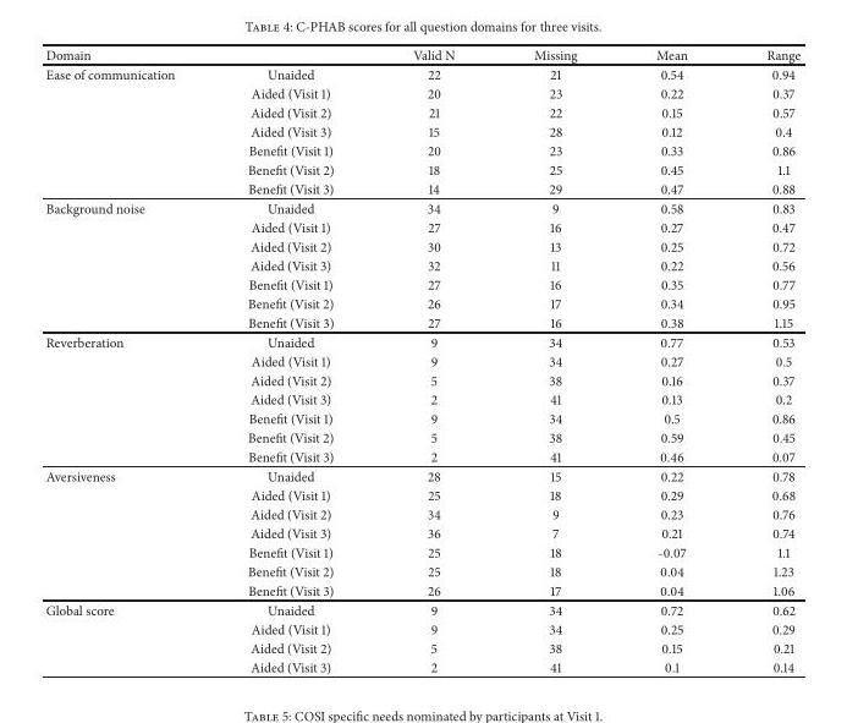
<table><thead><tr><td>Domain</td><td></td><td>Valid N</td><td>Missing</td><td>Mean</td><td>Range</td></tr></thead><tbody><tr><td rowspan="7">Ease of communication</td><td>Unaided</td><td>22</td><td>21</td><td>0.54</td><td>0.94</td></tr><tr><td>Aided (Visit 1)</td><td>20</td><td>23</td><td>0.22</td><td>0.37</td></tr><tr><td>Aided (Visit 2)</td><td>21</td><td>22</td><td>0.15</td><td>0.57</td></tr><tr><td>Aided (Visit 3)</td><td>15</td><td>28</td><td>0.12</td><td>0.4</td></tr><tr><td>Benefit (Visit 1)</td><td>20</td><td>23</td><td>0.33</td><td>0.86</td></tr><tr><td>Benefit (Visit 2)</td><td>18</td><td>25</td><td>0.45</td><td>1.1</td></tr><tr><td>Benefit (Visit 3)</td><td>14</td><td>29</td><td>0.47</td><td>0.88</td></tr><tr><td rowspan="7">Background noise</td><td>Unaided</td><td>34</td><td>9</td><td>0.58</td><td>0.83</td></tr><tr><td>Aided (Visit 1)</td><td>27</td><td>16</td><td>0.27</td><td>0.47</td></tr><tr><td>Aided (Visit 2)</td><td>30</td><td>13</td><td>0.25</td><td>0.72</td></tr><tr><td>Aided (Visit 3)</td><td>32</td><td>11</td><td>0.22</td><td>0.56</td></tr><tr><td>Benefit (Visit 1)</td><td>27</td><td>16</td><td>0.35</td><td>0.77</td></tr><tr><td>Benefit (Visit 2)</td><td>26</td><td>17</td><td>0.34</td><td>0.95</td></tr><tr><td>Benefit (Visit 3)</td><td>27</td><td>16</td><td>0.38</td><td>1.15</td></tr><tr><td rowspan="7">Reverberation</td><td>Unaided</td><td>9</td><td>34</td><td>0.77</td><td>0.53</td></tr><tr><td>Aided (Visit 1)</td><td>9</td><td>34</td><td>0.27</td><td>0.5</td></tr><tr><td>Aided (Visit 2)</td><td>5</td><td>38</td><td>0.16</td><td>0.37</td></tr><tr><td>Aided (Visit 3)</td><td>2</td><td>41</td><td>0.13</td><td>0.2</td></tr><tr><td>Benefit (Visit 1)</td><td>9</td><td>34</td><td>0.5</td><td>0.86</td></tr><tr><td>Benefit (Visit 2)</td><td>5</td><td>38</td><td>0.59</td><td>0.45</td></tr><tr><td>Benefit (Visit 3)</td><td>2</td><td>41</td><td>0.46</td><td>0.07</td></tr><tr><td rowspan="7">Aversiveness</td><td>Unaided</td><td>28</td><td>15</td><td>0.22</td><td>0.78</td></tr><tr><td>Aided (Visit 1)</td><td>25</td><td>18</td><td>0.29</td><td>0.68</td></tr><tr><td>Aided (Visit 2)</td><td>34</td><td>9</td><td>0.23</td><td>0.76</td></tr><tr><td>Aided (Visit 3)</td><td>36</td><td>7</td><td>0.21</td><td>0.74</td></tr><tr><td>Benefit (Visit 1)</td><td>25</td><td>18</td><td>-0.07</td><td>1.1</td></tr><tr><td>Benefit (Visit 2)</td><td>25</td><td>18</td><td>0.04</td><td>1.23</td></tr><tr><td>Benefit (Visit 3)</td><td>26</td><td>17</td><td>0.04</td><td>1.06</td></tr><tr><td rowspan="4">Global score</td><td>Unaided</td><td>9</td><td>34</td><td>0.72</td><td>0.62</td></tr><tr><td>Aided (Visit 1)</td><td>9</td><td>34</td><td>0.25</td><td>0.29</td></tr><tr><td>Aided (Visit 2)</td><td>5</td><td>38</td><td>0.15</td><td>0.21</td></tr><tr><td>Aided (Visit 3)</td><td>2</td><td>41</td><td>0.1</td><td>0.14</td></tr></tbody></table>